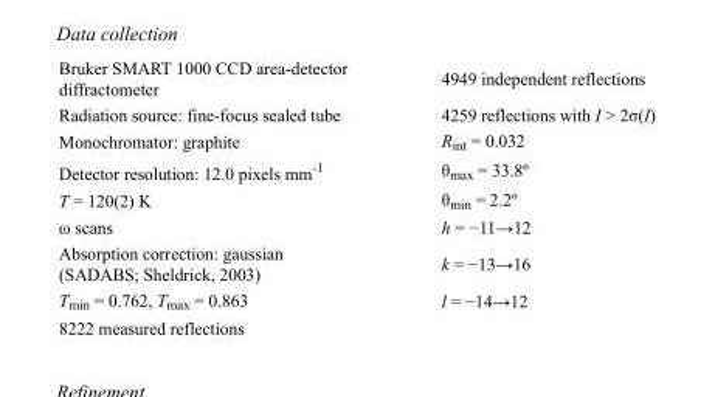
<table><tbody><tr><td>Bruker SMART 1000 CCD area-detector diffractometer</td><td>4949 independent reflections</td></tr><tr><td>Radiation source: fine-focus sealed tube</td><td>4259 reflections with I &gt; 2σ(I)</td></tr><tr><td>Monochromator: graphite</td><td>R<sub>int</sub> = 0.032</td></tr><tr><td>Detector resolution: 12.0 pixels mm<sup>-1</sup></td><td>θ<sub>max</sub> = 33.8º</td></tr><tr><td>T = 120(2) K</td><td>θ<sub>min</sub> = 2.2º</td></tr><tr><td>ω scans</td><td>h = −11→12</td></tr><tr><td>Absorption correction: gaussian (SADABS; Sheldrick, 2003)</td><td>k = −13→16</td></tr><tr><td>T<sub>min</sub> = 0.762, T<sub>max</sub> = 0.863</td><td>l = −14→12</td></tr><tr><td>8222 measured reflections</td><td></td></tr></tbody></table>